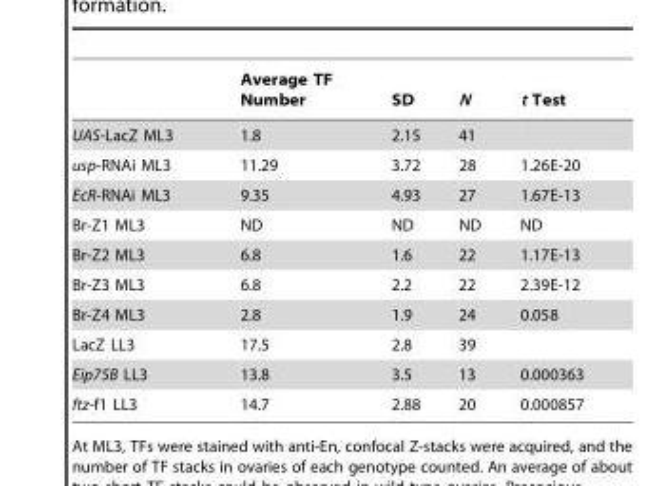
<table><thead><tr><td></td><td>Average TF Number</td><td>SD</td><td>N</td><td>t Test</td></tr></thead><tbody><tr><td>UAS-LacZ ML3</td><td>1.8</td><td>2.15</td><td>41</td><td></td></tr><tr><td>usp-RNAi ML3</td><td>11.29</td><td>3.72</td><td>28</td><td>1.26E-20</td></tr><tr><td>EcR-RNAi ML3</td><td>9.35</td><td>4.93</td><td>27</td><td>1.67E-13</td></tr><tr><td>Br-Z1 ML3</td><td>ND</td><td>ND</td><td>ND</td><td>ND</td></tr><tr><td>Br-Z2 ML3</td><td>6.8</td><td>1.6</td><td>22</td><td>1.17E-13</td></tr><tr><td>Br-Z3 ML3</td><td>6.8</td><td>2.2</td><td>22</td><td>2.39E-12</td></tr><tr><td>Br-Z4 ML3</td><td>2.8</td><td>1.9</td><td>24</td><td>0.058</td></tr><tr><td>LacZ LL3</td><td>17.5</td><td>2.8</td><td>39</td><td></td></tr><tr><td>Eip75B LL3</td><td>13.8</td><td>3.5</td><td>13</td><td>0.000363</td></tr><tr><td>ftz-f1 LL3</td><td>14.7</td><td>2.88</td><td>20</td><td>0.000857</td></tr></tbody></table>